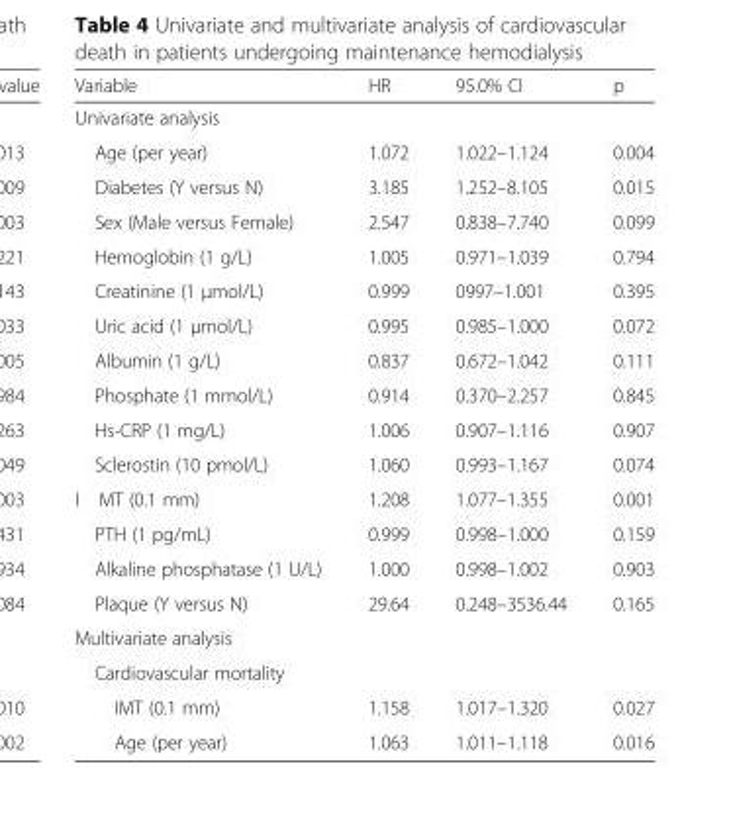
<table><thead><tr><td>Variable</td><td>HR</td><td>95.0% CI</td><td>p</td></tr></thead><tbody><tr><td colspan="4">Univariate analysis</td></tr><tr><td>Age (per year)</td><td>1.072</td><td>1.022–1.124</td><td>0.004</td></tr><tr><td>Diabetes (Y versus N)</td><td>3.185</td><td>1.252–8.105</td><td>0.015</td></tr><tr><td>Sex (Male versus Female)</td><td>2.547</td><td>0.838–7.740</td><td>0.099</td></tr><tr><td>Hemoglobin (1 g/L)</td><td>1.005</td><td>0.971–1.039</td><td>0.794</td></tr><tr><td>Creatinine (1 μmol/L)</td><td>0.999</td><td>0997–1.001</td><td>0.395</td></tr><tr><td>Uric acid (1 μmol/L)</td><td>0.995</td><td>0.985–1.000</td><td>0.072</td></tr><tr><td>Albumin (1 g/L)</td><td>0.837</td><td>0.672–1.042</td><td>0.111</td></tr><tr><td>Phosphate (1 mmol/L)</td><td>0.914</td><td>0.370–2.257</td><td>0.845</td></tr><tr><td>Hs-CRP (1 mg/L)</td><td>1.006</td><td>0.907–1.116</td><td>0.907</td></tr><tr><td>Sclerostin (10 pmol/L)</td><td>1.060</td><td>0.993–1.167</td><td>0.074</td></tr><tr><td>I MT (0.1 mm)</td><td>1.208</td><td>1.077–1.355</td><td>0.001</td></tr><tr><td>PTH (1 pg/mL)</td><td>0.999</td><td>0.998–1.000</td><td>0.159</td></tr><tr><td>Alkaline phosphatase (1 U/L)</td><td>1.000</td><td>0.998–1.002</td><td>0.903</td></tr><tr><td>Plaque (Y versus N)</td><td>29.64</td><td>0.248–3536.44</td><td>0.165</td></tr><tr><td colspan="4">Multivariate analysis</td></tr><tr><td colspan="4">Cardiovascular mortality</td></tr><tr><td>IMT (0.1 mm)</td><td>1.158</td><td>1.017–1.320</td><td>0.027</td></tr><tr><td>Age (per year)</td><td>1.063</td><td>1.011–1.118</td><td>0.016</td></tr></tbody></table>